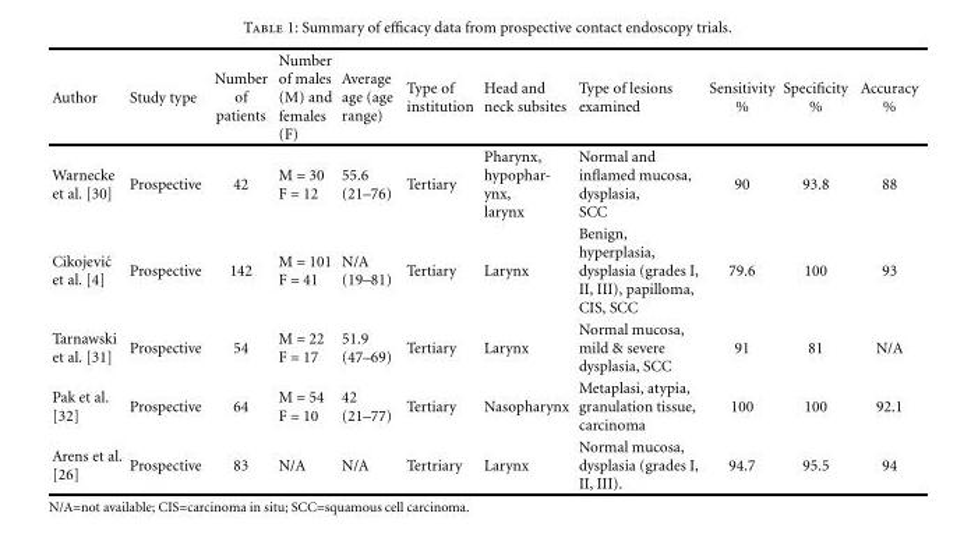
<table><thead><tr><td>Author</td><td>Study type</td><td>Number of patients</td><td>Number of males (M) and females (F)</td><td>Average age (age range)</td><td>Type of institution</td><td>Head and neck subsites</td><td>Type of lesions examined</td><td>Sensitivity %</td><td>Specificity %</td><td>Accuracy %</td></tr></thead><tbody><tr><td>Warnecke et al. [30]</td><td>Prospective</td><td>42</td><td>M = 30 F = 12</td><td>55.6 (21–76)</td><td>Tertiary</td><td>Pharynx, hypophar- ynx, larynx</td><td>Normal and inflamed mucosa, dysplasia, SCC</td><td>90</td><td>93.8</td><td>88</td></tr><tr><td>Cikojevi´c et al. [4]</td><td>Prospective</td><td>142</td><td>M = 101 F = 41</td><td>N/A (19–81)</td><td>Tertiary</td><td>Larynx</td><td>Benign, hyperplasia, dysplasia (grades I, II, III), papilloma, CIS, SCC</td><td>79.6</td><td>100</td><td>93</td></tr><tr><td>Tarnawski et al. [31]</td><td>Prospective</td><td>54</td><td>M = 22 F = 17</td><td>51.9 (47–69)</td><td>Tertiary</td><td>Larynx</td><td>Normal mucosa, mild &amp; severe dysplasia, SCC</td><td>91</td><td>81</td><td>N/A</td></tr><tr><td>Pak et al. [32]</td><td>Prospective</td><td>64</td><td>M = 54 F = 10</td><td>42 (21–77)</td><td>Tertiary</td><td>Nasopharynx</td><td>Metaplasi, atypia, granulation tissue, carcinoma</td><td>100</td><td>100</td><td>92.1</td></tr><tr><td>Arens et al. [26]</td><td>Prospective</td><td>83</td><td>N/A</td><td>N/A</td><td>Tertriary</td><td>Larynx</td><td>Normal mucosa, dysplasia (grades I, II, III).</td><td>94.7</td><td>95.5</td><td>94</td></tr></tbody></table>